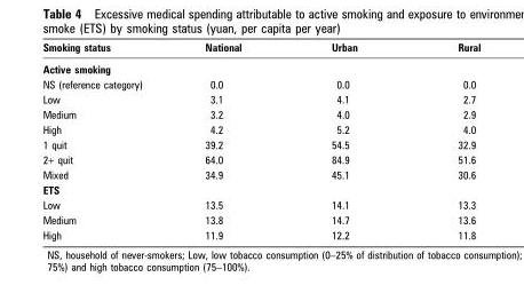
<table><thead><tr><td>Smoking status</td><td>National</td><td>Urban</td><td>Rural</td></tr></thead><tbody><tr><td colspan="4">Active smoking</td></tr><tr><td>NS (reference category)</td><td>0.0</td><td>0.0</td><td>0.0</td></tr><tr><td>Low</td><td>3.1</td><td>4.1</td><td>2.7</td></tr><tr><td>Medium</td><td>3.2</td><td>4.0</td><td>2.9</td></tr><tr><td>High</td><td>4.2</td><td>5.2</td><td>4.0</td></tr><tr><td>1 quit</td><td>39.2</td><td>54.5</td><td>32.9</td></tr><tr><td>2+ quit</td><td>64.0</td><td>84.9</td><td>51.6</td></tr><tr><td>Mixed</td><td>34.9</td><td>45.1</td><td>30.6</td></tr><tr><td colspan="4">ETS</td></tr><tr><td>Low</td><td>13.5</td><td>14.1</td><td>13.3</td></tr><tr><td>Medium</td><td>13.8</td><td>14.7</td><td>13.6</td></tr><tr><td>High</td><td>11.9</td><td>12.2</td><td>11.8</td></tr></tbody></table>